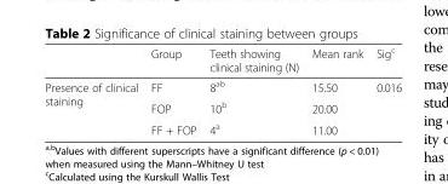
<table><thead><tr><td></td><td>Group</td><td>Teeth showing clinical staining (N)</td><td>Mean rank</td><td>Sig<sup>c</sup></td></tr></thead><tbody><tr><td rowspan="3">Presence of clinical staining</td><td>FF</td><td>8<sup>ab</sup></td><td>15.50</td><td rowspan="3">0.016</td></tr><tr><td>FOP</td><td>10<sup>b</sup></td><td>20.00</td></tr><tr><td>FF + FOP</td><td>4<sup>a</sup></td><td>11.00</td></tr></tbody></table>